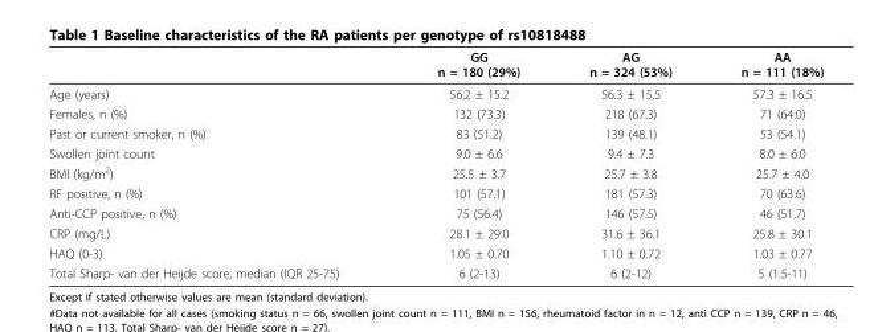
<table><thead><tr><td></td><td>GG n = 180 (29%)</td><td>AG n = 324 (53%)</td><td>AA n = 111 (18%)</td></tr></thead><tbody><tr><td>Age (years)</td><td>56.2 ± 15.2</td><td>56.3 ± 15.5</td><td>57.3 ± 16.5</td></tr><tr><td>Females, n (%)</td><td>132 (73.3)</td><td>218 (67.3)</td><td>71 (64.0)</td></tr><tr><td>Past or current smoker, n (%)</td><td>83 (51.2)</td><td>139 (48.1)</td><td>53 (54.1)</td></tr><tr><td>Swollen joint count</td><td>9.0 ± 6.6</td><td>9.4 ± 7.3</td><td>8.0 ± 6.0</td></tr><tr><td>BMI (kg/m<sup>2</sup>)</td><td>25.5 ± 3.7</td><td>25.7 ± 3.8</td><td>25.7 ± 4.0</td></tr><tr><td>RF positive, n (%)</td><td>101 (57.1)</td><td>181 (57.3)</td><td>70 (63.6)</td></tr><tr><td>Anti-CCP positive, n (%)</td><td>75 (56.4)</td><td>146 (57.5)</td><td>46 (51.7)</td></tr><tr><td>CRP (mg/L)</td><td>28.1 ± 29.0</td><td>31.6 ± 36.1</td><td>25.8 ± 30.1</td></tr><tr><td>HAQ (0-3)</td><td>1.05 ± 0.70</td><td>1.10 ± 0.72</td><td>1.03 ± 0.77</td></tr><tr><td>Total Sharp- van der Heijde score, median (IQR 25-75)</td><td>6 (2-13)</td><td>6 (2-12)</td><td>5 (1.5-11)</td></tr></tbody></table>